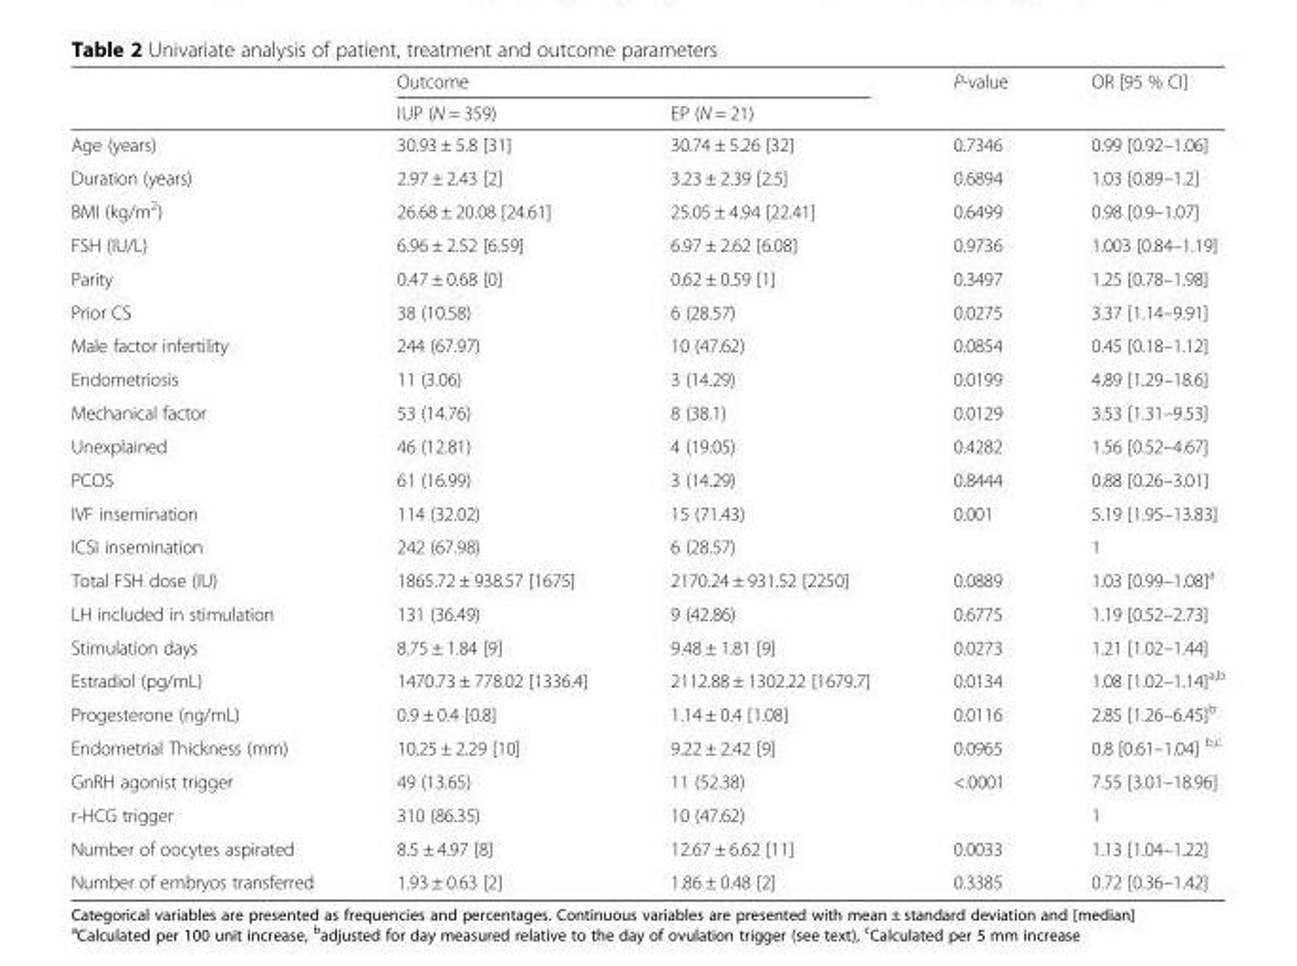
<table><thead><tr><td rowspan="2"></td><td colspan="2">Outcome</td><td rowspan="2">P-value</td><td rowspan="2">OR [95 % CI]</td></tr><tr><td>IUP (N = 359)</td><td>EP (N = 21)</td></tr></thead><tbody><tr><td>Age (years)</td><td>30.93 ± 5.8 [31]</td><td>30.74 ± 5.26 [32]</td><td>0.7346</td><td>0.99 [0.92–1.06]</td></tr><tr><td>Duration (years)</td><td>2.97 ± 2.43 [2]</td><td>3.23 ± 2.39 [2.5]</td><td>0.6894</td><td>1.03 [0.89–1.2]</td></tr><tr><td>BMI (kg/m<sup>2</sup>)</td><td>26.68 ± 20.08 [24.61]</td><td>25.05 ± 4.94 [22.41]</td><td>0.6499</td><td>0.98 [0.9–1.07]</td></tr><tr><td>FSH (IU/L)</td><td>6.96 ± 2.52 [6.59]</td><td>6.97 ± 2.62 [6.08]</td><td>0.9736</td><td>1.003 [0.84–1.19]</td></tr><tr><td>Parity</td><td>0.47 ± 0.68 [0]</td><td>0.62 ± 0.59 [1]</td><td>0.3497</td><td>1.25 [0.78–1.98]</td></tr><tr><td>Prior CS</td><td>38 (10.58)</td><td>6 (28.57)</td><td>0.0275</td><td>3.37 [1.14–9.91]</td></tr><tr><td>Male factor infertility</td><td>244 (67.97)</td><td>10 (47.62)</td><td>0.0854</td><td>0.45 [0.18–1.12]</td></tr><tr><td>Endometriosis</td><td>11 (3.06)</td><td>3 (14.29)</td><td>0.0199</td><td>4.89 [1.29–18.6]</td></tr><tr><td>Mechanical factor</td><td>53 (14.76)</td><td>8 (38.1)</td><td>0.0129</td><td>3.53 [1.31–9.53]</td></tr><tr><td>Unexplained</td><td>46 (12.81)</td><td>4 (19.05)</td><td>0.4282</td><td>1.56 [0.52–4.67]</td></tr><tr><td>PCOS</td><td>61 (16.99)</td><td>3 (14.29)</td><td>0.8444</td><td>0.88 [0.26–3.01]</td></tr><tr><td>IVF insemination</td><td>114 (32.02)</td><td>15 (71.43)</td><td>0.001</td><td>5.19 [1.95–13.83]</td></tr><tr><td>ICSI insemination</td><td>242 (67.98)</td><td>6 (28.57)</td><td></td><td>1</td></tr><tr><td>Total FSH dose (IU)</td><td>1865.72 ± 938.57 [1675]</td><td>2170.24 ± 931.52 [2250]</td><td>0.0889</td><td>1.03 [0.99–1.08]<sup>a</sup></td></tr><tr><td>LH included in stimulation</td><td>131 (36.49)</td><td>9 (42.86)</td><td>0.6775</td><td>1.19 [0.52–2.73]</td></tr><tr><td>Stimulation days</td><td>8.75 ± 1.84 [9]</td><td>9.48 ± 1.81 [9]</td><td>0.0273</td><td>1.21 [1.02–1.44]</td></tr><tr><td>Estradiol (pg/mL)</td><td>1470.73 ± 778.02 [1336.4]</td><td>2112.88 ± 1302.22 [1679.7]</td><td>0.0134</td><td>1.08 [1.02–1.14]<sup>a,b</sup></td></tr><tr><td>Progesterone (ng/mL)</td><td>0.9 ± 0.4 [0.8]</td><td>1.14 ± 0.4 [1.08]</td><td>0.0116</td><td>2.85 [1.26–6.45]<sup>b</sup></td></tr><tr><td>Endometrial Thickness (mm)</td><td>10.25 ± 2.29 [10]</td><td>9.22 ± 2.42 [9]</td><td>0.0965</td><td>0.8 [0.61–1.04] <sup>b,c</sup></td></tr><tr><td>GnRH agonist trigger</td><td>49 (13.65)</td><td>11 (52.38)</td><td>&lt;.0001</td><td>7.55 [3.01–18.96]</td></tr><tr><td>r-HCG trigger</td><td>310 (86.35)</td><td>10 (47.62)</td><td></td><td>1</td></tr><tr><td>Number of oocytes aspirated</td><td>8.5 ± 4.97 [8]</td><td>12.67 ± 6.62 [11]</td><td>0.0033</td><td>1.13 [1.04–1.22]</td></tr><tr><td>Number of embryos transferred</td><td>1.93 ± 0.63 [2]</td><td>1.86 ± 0.48 [2]</td><td>0.3385</td><td>0.72 [0.36–1.42]</td></tr></tbody></table>